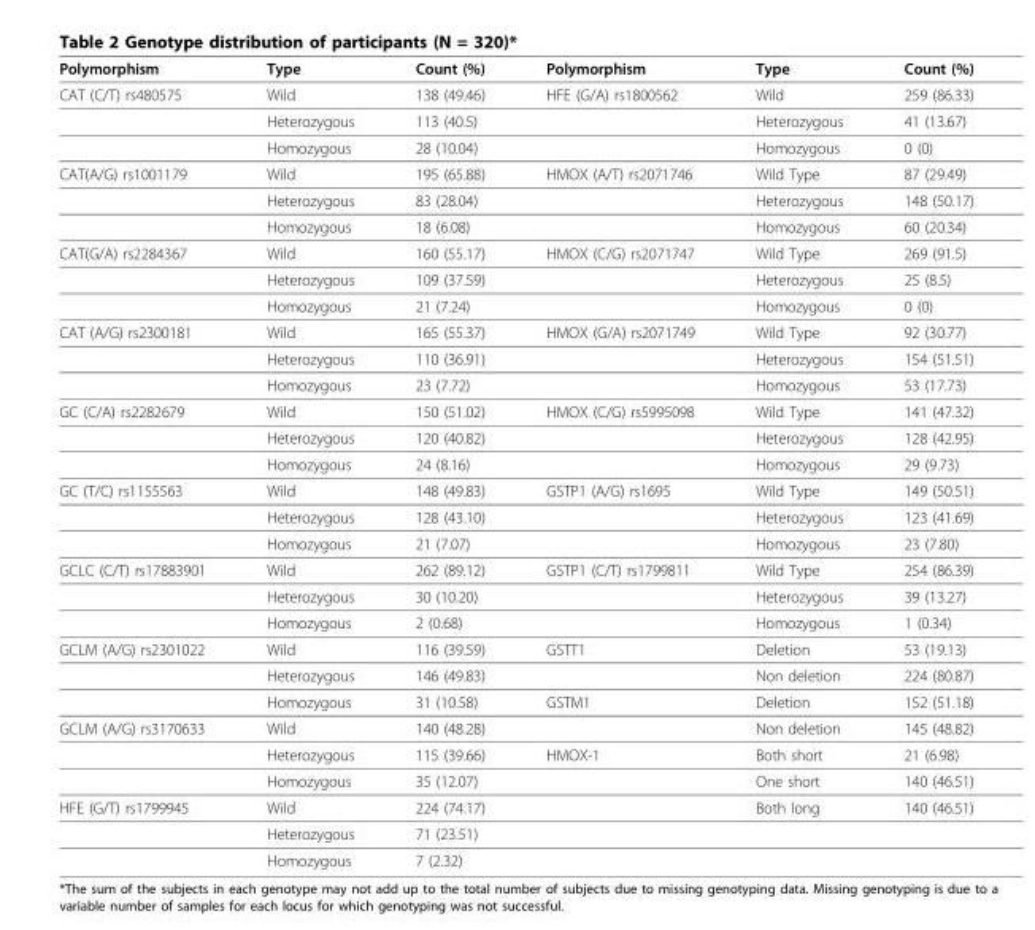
<table><thead><tr><td>Polymorphism</td><td>Type</td><td>Count (%)</td><td>Polymorphism</td><td>Type</td><td>Count (%)</td></tr></thead><tbody><tr><td rowspan="3">CAT (C/T) rs480575</td><td>Wild</td><td>138 (49.46)</td><td>HFE (G/A) rs1800562</td><td>Wild</td><td>259 (86.33)</td></tr><tr><td>Heterozygous</td><td>113 (40.5)</td><td></td><td>Heterozygous</td><td>41 (13.67)</td></tr><tr><td>Homozygous</td><td>28 (10.04)</td><td></td><td>Homozygous</td><td>0 (0)</td></tr><tr><td rowspan="3">CAT(A/G) rs1001179</td><td>Wild</td><td>195 (65.88)</td><td>HMOX (A/T) rs2071746</td><td>Wild Type</td><td>87 (29.49)</td></tr><tr><td>Heterozygous</td><td>83 (28.04)</td><td></td><td>Heterozygous</td><td>148 (50.17)</td></tr><tr><td>Homozygous</td><td>18 (6.08)</td><td></td><td>Homozygous</td><td>60 (20.34)</td></tr><tr><td rowspan="3">CAT(G/A) rs2284367</td><td>Wild</td><td>160 (55.17)</td><td>HMOX (C/G) rs2071747</td><td>Wild Type</td><td>269 (91.5)</td></tr><tr><td>Heterozygous</td><td>109 (37.59)</td><td></td><td>Heterozygous</td><td>25 (8.5)</td></tr><tr><td>Homozygous</td><td>21 (7.24)</td><td></td><td>Homozygous</td><td>0 (0)</td></tr><tr><td rowspan="3">CAT (A/G) rs2300181</td><td>Wild</td><td>165 (55.37)</td><td>HMOX (G/A) rs2071749</td><td>Wild Type</td><td>92 (30.77)</td></tr><tr><td>Heterozygous</td><td>110 (36.91)</td><td></td><td>Heterozygous</td><td>154 (51.51)</td></tr><tr><td>Homozygous</td><td>23 (7.72)</td><td></td><td>Homozygous</td><td>53 (17.73)</td></tr><tr><td rowspan="3">GC (C/A) rs2282679</td><td>Wild</td><td>150 (51.02)</td><td>HMOX (C/G) rs5995098</td><td>Wild Type</td><td>141 (47.32)</td></tr><tr><td>Heterozygous</td><td>120 (40.82)</td><td></td><td>Heterozygous</td><td>128 (42.95)</td></tr><tr><td>Homozygous</td><td>24 (8.16)</td><td></td><td>Homozygous</td><td>29 (9.73)</td></tr><tr><td rowspan="3">GC (T/C) rs1155563</td><td>Wild</td><td>148 (49.83)</td><td>GSTP1 (A/G) rs1695</td><td>Wild Type</td><td>149 (50.51)</td></tr><tr><td>Heterozygous</td><td>128 (43.10)</td><td></td><td>Heterozygous</td><td>123 (41.69)</td></tr><tr><td>Homozygous</td><td>21 (7.07)</td><td></td><td>Homozygous</td><td>23 (7.80)</td></tr><tr><td rowspan="3">GCLC (C/T) rs17883901</td><td>Wild</td><td>262 (89.12)</td><td>GSTP1 (C/T) rs1799811</td><td>Wild Type</td><td>254 (86.39)</td></tr><tr><td>Heterozygous</td><td>30 (10.20)</td><td></td><td>Heterozygous</td><td>39 (13.27)</td></tr><tr><td>Homozygous</td><td>2 (0.68)</td><td></td><td>Homozygous</td><td>1 (0.34)</td></tr><tr><td rowspan="3">GCLM (A/G) rs2301022</td><td>Wild</td><td>116 (39.59)</td><td>GSTT1</td><td>Deletion</td><td>53 (19.13)</td></tr><tr><td>Heterozygous</td><td>146 (49.83)</td><td></td><td>Non deletion</td><td>224 (80.87)</td></tr><tr><td>Homozygous</td><td>31 (10.58)</td><td>GSTM1</td><td>Deletion</td><td>152 (51.18)</td></tr><tr><td rowspan="3">GCLM (A/G) rs3170633</td><td>Wild</td><td>140 (48.28)</td><td></td><td>Non deletion</td><td>145 (48.82)</td></tr><tr><td>Heterozygous</td><td>115 (39.66)</td><td>HMOX-1</td><td>Both short</td><td>21 (6.98)</td></tr><tr><td>Homozygous</td><td>35 (12.07)</td><td></td><td>One short</td><td>140 (46.51)</td></tr><tr><td rowspan="3">HFE (G/T) rs1799945</td><td>Wild</td><td>224 (74.17)</td><td></td><td>Both long</td><td>140 (46.51)</td></tr><tr><td>Heterozygous</td><td>71 (23.51)</td><td></td><td></td><td></td></tr><tr><td>Homozygous</td><td>7 (2.32)</td><td></td><td></td><td></td></tr></tbody></table>